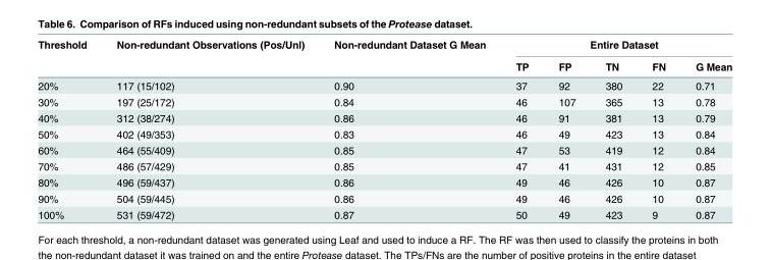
<table><thead><tr><td rowspan="2">Threshold</td><td rowspan="2">Non-redundant Observations (Pos/Unl)</td><td rowspan="2">Non-redundant Dataset G Mean</td><td colspan="5">Entire Dataset</td></tr><tr><td>TP</td><td>FP</td><td>TN</td><td>FN</td><td>G Mean</td></tr></thead><tbody><tr><td>20%</td><td>117 (15/102)</td><td>0.90</td><td>37</td><td>92</td><td>380</td><td>22</td><td>0.71</td></tr><tr><td>30%</td><td>197 (25/172)</td><td>0.84</td><td>46</td><td>107</td><td>365</td><td>13</td><td>0.78</td></tr><tr><td>40%</td><td>312 (38/274)</td><td>0.86</td><td>46</td><td>91</td><td>381</td><td>13</td><td>0.79</td></tr><tr><td>50%</td><td>402 (49/353)</td><td>0.83</td><td>46</td><td>49</td><td>423</td><td>13</td><td>0.84</td></tr><tr><td>60%</td><td>464 (55/409)</td><td>0.85</td><td>47</td><td>53</td><td>419</td><td>12</td><td>0.84</td></tr><tr><td>70%</td><td>486 (57/429)</td><td>0.85</td><td>47</td><td>41</td><td>431</td><td>12</td><td>0.85</td></tr><tr><td>80%</td><td>496 (59/437)</td><td>0.86</td><td>49</td><td>46</td><td>426</td><td>10</td><td>0.87</td></tr><tr><td>90%</td><td>504 (59/445)</td><td>0.86</td><td>49</td><td>46</td><td>426</td><td>10</td><td>0.87</td></tr><tr><td>100%</td><td>531 (59/472)</td><td>0.87</td><td>50</td><td>49</td><td>423</td><td>9</td><td>0.87</td></tr></tbody></table>